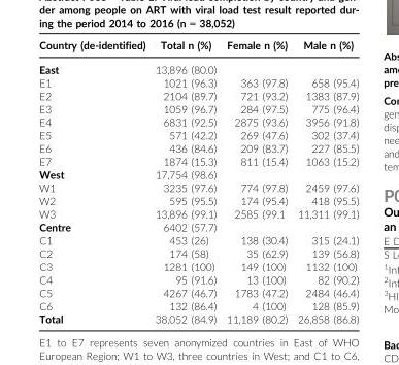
<table><thead><tr><td>Country (de-identified)</td><td>Total n (%)</td><td>Female n (%)</td><td>Male n (%)</td></tr></thead><tbody><tr><td>East</td><td>13,896 (80.0)</td><td></td><td></td></tr><tr><td>E1</td><td>1021 (96.3)</td><td>363 (97.8)</td><td>658 (95.4)</td></tr><tr><td>E2</td><td>2104 (89.7)</td><td>721 (93.2)</td><td>1383 (87.9)</td></tr><tr><td>E3</td><td>1059 (96.7)</td><td>284 (97.5)</td><td>775 (96.4)</td></tr><tr><td>E4</td><td>6831 (92.5)</td><td>2875 (93.6)</td><td>3956 (91.8)</td></tr><tr><td>E5</td><td>571 (42.2)</td><td>269 (47.6)</td><td>302 (37.4)</td></tr><tr><td>E6</td><td>436 (84.6)</td><td>209 (83.7)</td><td>227 (85.5)</td></tr><tr><td>E7</td><td>1874 (15.3)</td><td>811 (15.4)</td><td>1063 (15.2)</td></tr><tr><td>West</td><td>17,754 (98.6)</td><td></td><td></td></tr><tr><td>W1</td><td>3235 (97.6)</td><td>774 (97.8)</td><td>2459 (97.6)</td></tr><tr><td>W2</td><td>595 (95.5)</td><td>174 (95.4)</td><td>418 (95.5)</td></tr><tr><td>W3</td><td>13,896 (99.1)</td><td>2585 (99.1</td><td>11,311 (99.1)</td></tr><tr><td>Centre</td><td>6402 (57.7)</td><td></td><td></td></tr><tr><td>C1</td><td>453 (26)</td><td>138 (30.4)</td><td>315 (24.1)</td></tr><tr><td>C2</td><td>174 (58)</td><td>35 (62.9)</td><td>139 (56.8)</td></tr><tr><td>C3</td><td>1281 (100)</td><td>149 (100)</td><td>1132 (100)</td></tr><tr><td>C4</td><td>95 (91.6)</td><td>13 (100)</td><td>82 (90.2)</td></tr><tr><td>C5</td><td>4267 (46.7)</td><td>1783 (47.2)</td><td>2484 (46.4)</td></tr><tr><td>C6</td><td>132 (86.4)</td><td>4 (100)</td><td>128 (85.9)</td></tr><tr><td>Total</td><td>38,052 (84.9)</td><td>11,189 (80.2)</td><td>26,858 (86.8)</td></tr></tbody></table>